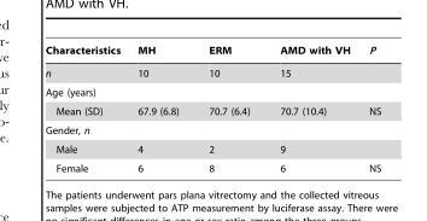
<table><thead><tr><td>Characteristics</td><td>MH</td><td>ERM</td><td>AMD with VH</td><td>P</td></tr></thead><tbody><tr><td>n</td><td>10</td><td>10</td><td>15</td><td></td></tr><tr><td colspan="5">Age (years)</td></tr><tr><td>Mean (SD)</td><td>67.9 (6.8)</td><td>70.7 (6.4)</td><td>70.7 (10.4)</td><td>NS</td></tr><tr><td colspan="5">Gender, n</td></tr><tr><td>Male</td><td>4</td><td>2</td><td>9</td><td></td></tr><tr><td>Female</td><td>6</td><td>8</td><td>6</td><td>NS</td></tr></tbody></table>